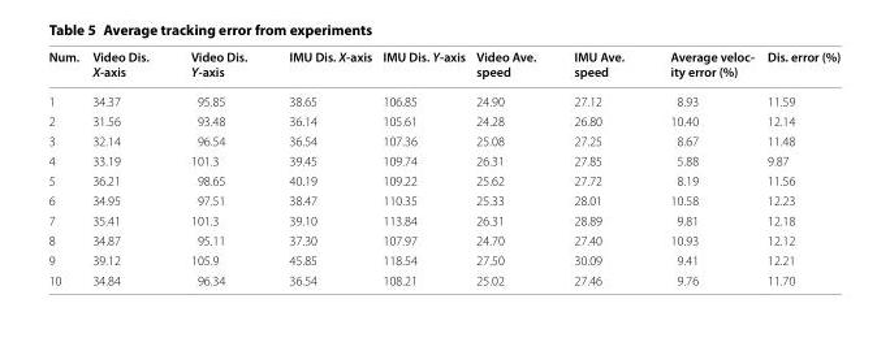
<table><thead><tr><td>Num.</td><td>Video Dis. X-axis</td><td>Video Dis. Y-axis</td><td>IMU Dis. X-axis</td><td>IMU Dis. Y-axis</td><td>Video Ave. speed</td><td>IMU Ave. speed</td><td>Average veloc- ity error (%)</td><td>Dis. error (%)</td></tr></thead><tbody><tr><td>1</td><td>34.37</td><td>95.85</td><td>38.65</td><td>106.85</td><td>24.90</td><td>27.12</td><td>8.93</td><td>11.59</td></tr><tr><td>2</td><td>31.56</td><td>93.48</td><td>36.14</td><td>105.61</td><td>24.28</td><td>26.80</td><td>10.40</td><td>12.14</td></tr><tr><td>3</td><td>32.14</td><td>96.54</td><td>36.54</td><td>107.36</td><td>25.08</td><td>27.25</td><td>8.67</td><td>11.48</td></tr><tr><td>4</td><td>33.19</td><td>101.3</td><td>39.45</td><td>109.74</td><td>26.31</td><td>27.85</td><td>5.88</td><td>9.87</td></tr><tr><td>5</td><td>36.21</td><td>98.65</td><td>40.19</td><td>109.22</td><td>25.62</td><td>27.72</td><td>8.19</td><td>11.56</td></tr><tr><td>6</td><td>34.95</td><td>97.51</td><td>38.47</td><td>110.35</td><td>25.33</td><td>28.01</td><td>10.58</td><td>12.23</td></tr><tr><td>7</td><td>35.41</td><td>101.3</td><td>39.10</td><td>113.84</td><td>26.31</td><td>28.89</td><td>9.81</td><td>12.18</td></tr><tr><td>8</td><td>34.87</td><td>95.11</td><td>37.30</td><td>107.97</td><td>24.70</td><td>27.40</td><td>10.93</td><td>12.12</td></tr><tr><td>9</td><td>39.12</td><td>105.9</td><td>45.85</td><td>118.54</td><td>27.50</td><td>30.09</td><td>9.41</td><td>12.21</td></tr><tr><td>10</td><td>34.84</td><td>96.34</td><td>36.54</td><td>108.21</td><td>25.02</td><td>27.46</td><td>9.76</td><td>11.70</td></tr></tbody></table>